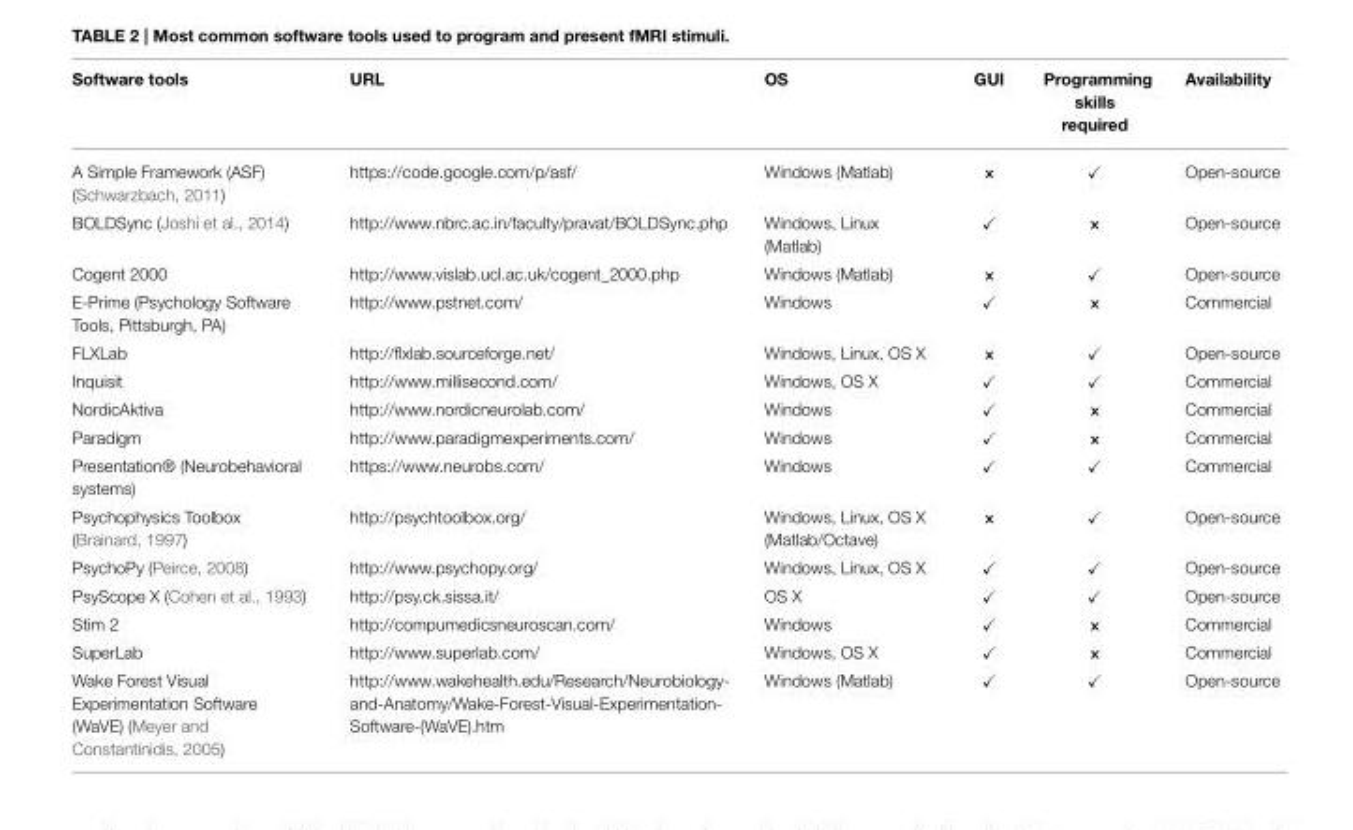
<table><thead><tr><td>Software tools</td><td>URL</td><td>OS</td><td>GUI</td><td>Programming skills required</td><td>Availability</td></tr></thead><tbody><tr><td>A Simple Framework (ASF) (Schwarzbach, 2011)</td><td>https://code.google.com/p/asf/</td><td>Windows (Matlab)</td><td>×</td><td>✓</td><td>Open-source</td></tr><tr><td>BOLDSync (Joshi et al., 2014)</td><td>http://www.nbrc.ac.in/faculty/pravat/BOLDSync.php</td><td>Windows, Linux (Matlab)</td><td>✓</td><td>×</td><td>Open-source</td></tr><tr><td>Cogent 2000</td><td>http://www.vislab.ucl.ac.uk/cogent_2000.php</td><td>Windows (Matlab)</td><td>×</td><td>✓</td><td>Open-source</td></tr><tr><td>E-Prime (Psychology Software Tools, Pittsburgh, PA)</td><td>http://www.pstnet.com/</td><td>Windows</td><td>✓</td><td>×</td><td>Commercial</td></tr><tr><td>FLXLab</td><td>http://flxlab.sourceforge.net/</td><td>Windows, Linux, OS X</td><td>×</td><td>✓</td><td>Open-source</td></tr><tr><td>Inquisit</td><td>http://www.millisecond.com/</td><td>Windows, OS X</td><td>✓</td><td>✓</td><td>Commercial</td></tr><tr><td>NordicAktiva</td><td>http://www.nordicneurolab.com/</td><td>Windows</td><td>✓</td><td>×</td><td>Commercial</td></tr><tr><td>Paradigm</td><td>http://www.paradigmexperiments.com/</td><td>Windows</td><td>✓</td><td>×</td><td>Commercial</td></tr><tr><td>Presentation® (Neurobehavioral systems)</td><td>https://www.neurobs.com/</td><td>Windows</td><td>✓</td><td>✓</td><td>Commercial</td></tr><tr><td>Psychophysics Toolbox (Brainard, 1997)</td><td>http://psychtoolbox.org/</td><td>Windows, Linux, OS X (Matlab/Octave)</td><td>×</td><td>✓</td><td>Open-source</td></tr><tr><td>PsychoPy (Peirce, 2008)</td><td>http://www.psychopy.org/</td><td>Windows, Linux, OS X</td><td>✓</td><td>✓</td><td>Open-source</td></tr><tr><td>PsyScope X (Cohen et al., 1993)</td><td>http://psy.ck.sissa.it/</td><td>OS X</td><td>✓</td><td>✓</td><td>Open-source</td></tr><tr><td>Stim 2</td><td>http://compumedicsneuroscan.com/</td><td>Windows</td><td>✓</td><td>×</td><td>Commercial</td></tr><tr><td>SuperLab</td><td>http://www.superlab.com/</td><td>Windows, OS X</td><td>✓</td><td>×</td><td>Commercial</td></tr><tr><td>Wake Forest Visual Experimentation Software (WaVE) (Meyer and Constantinidis, 2005)</td><td>http://www.wakehealth.edu/Research/Neurobiology- and-Anatomy/Wake-Forest-Visual-Experimentation- Software-(WaVE).htm</td><td>Windows (Matlab)</td><td>✓</td><td>✓</td><td>Open-source</td></tr></tbody></table>